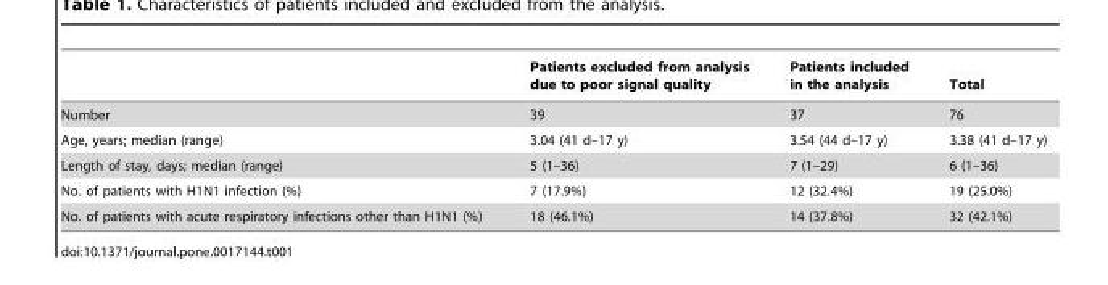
<table><thead><tr><td></td><td>Patients excluded from analysis due to poor signal quality</td><td>Patients included in the analysis</td><td>Total</td></tr></thead><tbody><tr><td>Number</td><td>39</td><td>37</td><td>76</td></tr><tr><td>Age, years; median (range)</td><td>3.04 (41 d–17 y)</td><td>3.54 (44 d–17 y)</td><td>3.38 (41 d–17 y)</td></tr><tr><td>Length of stay, days; median (range)</td><td>5 (1–36)</td><td>7 (1–29)</td><td>6 (1–36)</td></tr><tr><td>No. of patients with H1N1 infection (%)</td><td>7 (17.9%)</td><td>12 (32.4%)</td><td>19 (25.0%)</td></tr><tr><td>No. of patients with acute respiratory infections other than H1N1 (%)</td><td>18 (46.1%)</td><td>14 (37.8%)</td><td>32 (42.1%)</td></tr></tbody></table>